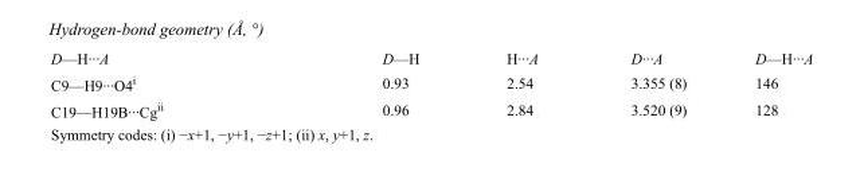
<table><tbody><tr><td>D—H···A</td><td>D—H</td><td>H···A</td><td>D···A</td><td>D—H···A</td></tr><tr><td>C9—H9···O4<sup>i</sup></td><td>0.93</td><td>2.54</td><td>3.355 (8)</td><td>146</td></tr><tr><td>C19—H19B···Cg<sup>ii</sup></td><td>0.96</td><td>2.84</td><td>3.520 (9)</td><td>128</td></tr></tbody></table>